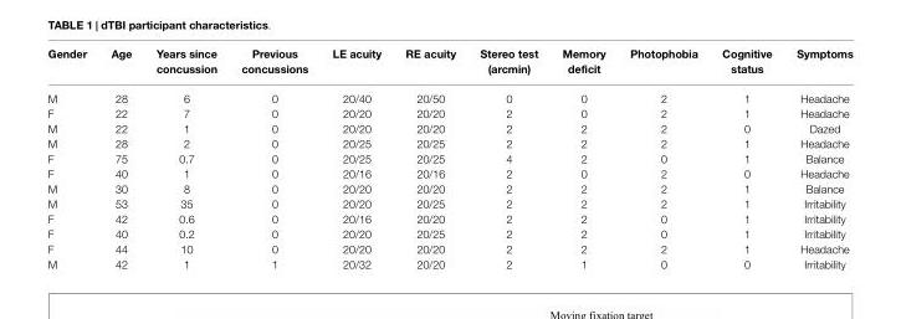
<table><thead><tr><td>Gender</td><td>Age</td><td>Years since concussion</td><td>Previous concussions</td><td>LE acuity</td><td>RE acuity</td><td>Stereo test (arcmin)</td><td>Memory deficit</td><td>Photophobia</td><td>Cognitive status</td><td>Symptoms</td></tr></thead><tbody><tr><td>M</td><td>28</td><td>6</td><td>0</td><td>20/40</td><td>20/50</td><td>0</td><td>0</td><td>2</td><td>1</td><td>Headache</td></tr><tr><td>F</td><td>22</td><td>7</td><td>0</td><td>20/20</td><td>20/20</td><td>2</td><td>0</td><td>2</td><td>1</td><td>Headache</td></tr><tr><td>M</td><td>22</td><td>1</td><td>0</td><td>20/20</td><td>20/20</td><td>2</td><td>2</td><td>2</td><td>0</td><td>Dazed</td></tr><tr><td>M</td><td>28</td><td>2</td><td>0</td><td>20/25</td><td>20/25</td><td>2</td><td>2</td><td>2</td><td>1</td><td>Headache</td></tr><tr><td>F</td><td>75</td><td>0.7</td><td>0</td><td>20/25</td><td>20/25</td><td>4</td><td>2</td><td>0</td><td>1</td><td>Balance</td></tr><tr><td>F</td><td>40</td><td>1</td><td>0</td><td>20/16</td><td>20/16</td><td>2</td><td>0</td><td>2</td><td>0</td><td>Headache</td></tr><tr><td>M</td><td>30</td><td>8</td><td>0</td><td>20/20</td><td>20/20</td><td>2</td><td>2</td><td>2</td><td>1</td><td>Balance</td></tr><tr><td>M</td><td>53</td><td>35</td><td>0</td><td>20/20</td><td>20/25</td><td>2</td><td>2</td><td>2</td><td>1</td><td>Irritability</td></tr><tr><td>F</td><td>42</td><td>0.6</td><td>0</td><td>20/16</td><td>20/20</td><td>2</td><td>2</td><td>0</td><td>1</td><td>Irritability</td></tr><tr><td>F</td><td>40</td><td>0.2</td><td>0</td><td>20/20</td><td>20/25</td><td>2</td><td>2</td><td>0</td><td>1</td><td>Irritability</td></tr><tr><td>F</td><td>44</td><td>10</td><td>0</td><td>20/20</td><td>20/20</td><td>2</td><td>2</td><td>2</td><td>1</td><td>Headache</td></tr><tr><td>M</td><td>42</td><td>1</td><td>1</td><td>20/32</td><td>20/20</td><td>2</td><td>1</td><td>0</td><td>0</td><td>Irritability</td></tr></tbody></table>